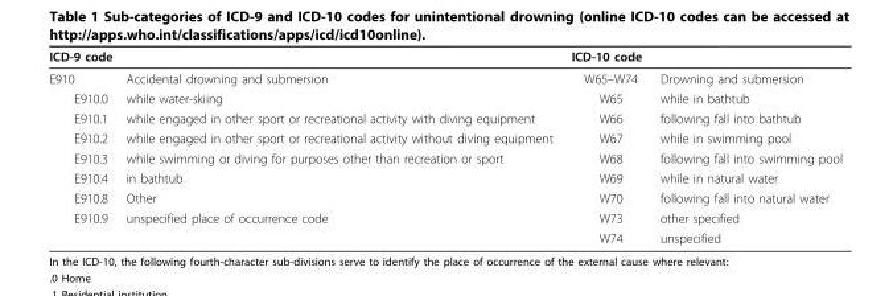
<table><thead><tr><td colspan="2">ICD-9 code</td><td rowspan="2">ICD-10 code W65–W74</td><td rowspan="2">Drowning and submersion</td></tr><tr><td>E910</td><td>Accidental drowning and submersion</td></tr></thead><tbody><tr><td>E910.0</td><td>while water-skiing</td><td>W65</td><td>while in bathtub</td></tr><tr><td>E910.1</td><td>while engaged in other sport or recreational activity with diving equipment</td><td>W66</td><td>following fall into bathtub</td></tr><tr><td>E910.2</td><td>while engaged in other sport or recreational activity without diving equipment</td><td>W67</td><td>while in swimming pool</td></tr><tr><td>E910.3</td><td>while swimming or diving for purposes other than recreation or sport</td><td>W68</td><td>following fall into swimming pool</td></tr><tr><td>E910.4</td><td>in bathtub</td><td>W69</td><td>while in natural water</td></tr><tr><td>E910.8</td><td>Other</td><td>W70</td><td>following fall into natural water</td></tr><tr><td rowspan="2">E910.9</td><td>unspecified place of occurrence code</td><td>W73</td><td>other specified</td></tr><tr><td></td><td>W74</td><td>unspecified</td></tr></tbody></table>